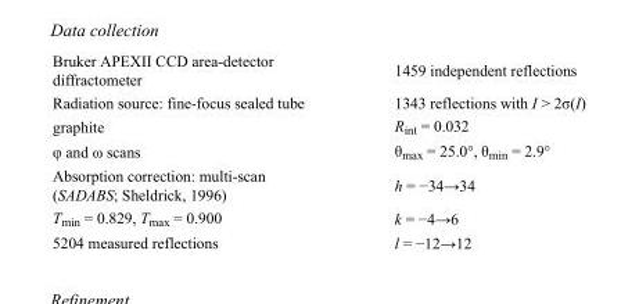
<table><tbody><tr><td>Bruker APEXII CCD area-detector diffractometer</td><td>1459 independent reflections</td></tr><tr><td>Radiation source: fine-focus sealed tube</td><td>1343 reflections with I &gt; 2σ(I)</td></tr><tr><td>graphite</td><td>R<sub>int</sub> = 0.032</td></tr><tr><td>φ and ω scans</td><td>θ<sub>max</sub> = 25.0°, θ<sub>min</sub> = 2.9°</td></tr><tr><td>Absorption correction: multi-scan (SADABS; Sheldrick, 1996)</td><td>h = −34→34</td></tr><tr><td>T<sub>min</sub> = 0.829, T<sub>max</sub> = 0.900</td><td>k = −4→6</td></tr><tr><td>5204 measured reflections</td><td>l = −12→12</td></tr></tbody></table>